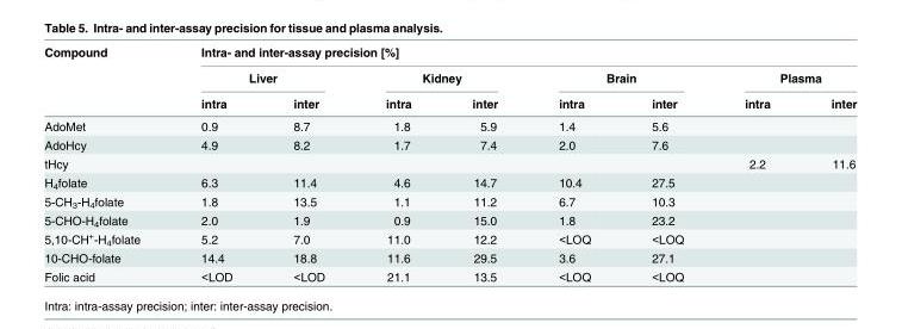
<table><thead><tr><td rowspan="3">Compound</td><td colspan="8">Intra- and inter-assay precision [%]</td></tr><tr><td colspan="2">Liver</td><td colspan="2">Kidney</td><td colspan="2">Brain</td><td colspan="2">Plasma</td></tr><tr><td>intra</td><td>inter</td><td>intra</td><td>inter</td><td>intra</td><td>inter</td><td>intra</td><td>inter</td></tr></thead><tbody><tr><td>AdoMet</td><td>0.9</td><td>8.7</td><td>1.8</td><td>5.9</td><td>1.4</td><td>5.6</td><td></td><td></td></tr><tr><td>AdoHcy</td><td>4.9</td><td>8.2</td><td>1.7</td><td>7.4</td><td>2.0</td><td>7.6</td><td></td><td></td></tr><tr><td>tHcy</td><td></td><td></td><td></td><td></td><td></td><td></td><td>2.2</td><td>11.6</td></tr><tr><td>H<sub>4</sub>folate</td><td>6.3</td><td>11.4</td><td>4.6</td><td>14.7</td><td>10.4</td><td>27.5</td><td></td><td></td></tr><tr><td>5-CH<sub>3</sub>-H<sub>4</sub>folate</td><td>1.8</td><td>13.5</td><td>1.1</td><td>11.2</td><td>6.7</td><td>10.3</td><td></td><td></td></tr><tr><td>5-CHO-H<sub>4</sub>folate</td><td>2.0</td><td>1.9</td><td>0.9</td><td>15.0</td><td>1.8</td><td>23.2</td><td></td><td></td></tr><tr><td>5,10-CH<sup>+</sup>-H<sub>4</sub>folate</td><td>5.2</td><td>7.0</td><td>11.0</td><td>12.2</td><td>&lt;LOQ</td><td>&lt;LOQ</td><td></td><td></td></tr><tr><td>10-CHO-folate</td><td>14.4</td><td>18.8</td><td>11.6</td><td>29.5</td><td>3.6</td><td>27.1</td><td></td><td></td></tr><tr><td>Folic acid</td><td>&lt;LOD</td><td>&lt;LOD</td><td>21.1</td><td>13.5</td><td>&lt;LOQ</td><td>&lt;LOQ</td><td></td><td></td></tr></tbody></table>